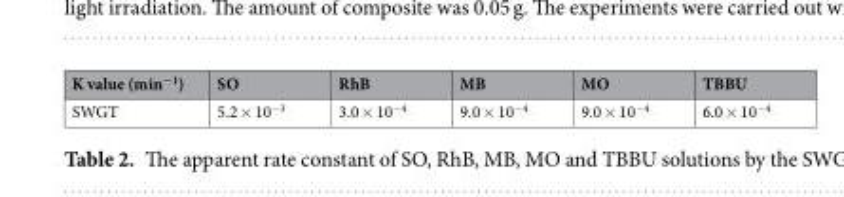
<table><thead><tr><td>K value (min<sup>−1</sup>)</td><td>SO</td><td>RhB</td><td>MB</td><td>MO</td><td>TBBU</td></tr></thead><tbody><tr><td>SWGT</td><td>5.2 × 10<sup>−3</sup></td><td>3.0 × 10<sup>−4</sup></td><td>9.0 × 10<sup>−4</sup></td><td>9.0 × 10<sup>−4</sup></td><td>6.0 × 10<sup>−4</sup></td></tr></tbody></table>